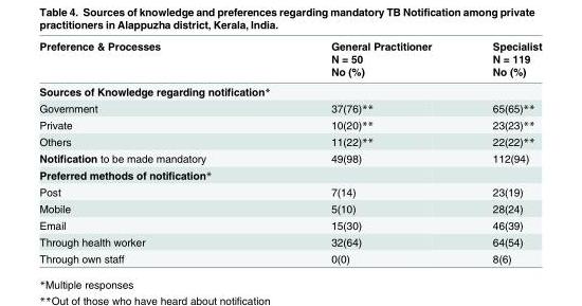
<table><thead><tr><td rowspan="3">Preference &amp; Processes</td><td rowspan="3">General Practitioner N = 50 No (%)</td><td rowspan="3">Specialist N = 119 No (%)</td></tr><tr></tr><tr></tr></thead><tbody><tr><td colspan="3">Sources of Knowledge regarding notification*</td></tr><tr><td>Government</td><td>37(76)**</td><td>65(65)**</td></tr><tr><td>Private</td><td>10(20)**</td><td>23(23)**</td></tr><tr><td>Others</td><td>11(22)**</td><td>22(22)**</td></tr><tr><td>Notification to be made mandatory</td><td>49(98)</td><td>112(94)</td></tr><tr><td colspan="3">Preferred methods of notification*</td></tr><tr><td>Post</td><td>7(14)</td><td>23(19)</td></tr><tr><td>Mobile</td><td>5(10)</td><td>28(24)</td></tr><tr><td>Email</td><td>15(30)</td><td>46(39)</td></tr><tr><td>Through health worker</td><td>32(64)</td><td>64(54)</td></tr><tr><td>Through own staff</td><td>0(0)</td><td>8(6)</td></tr></tbody></table>